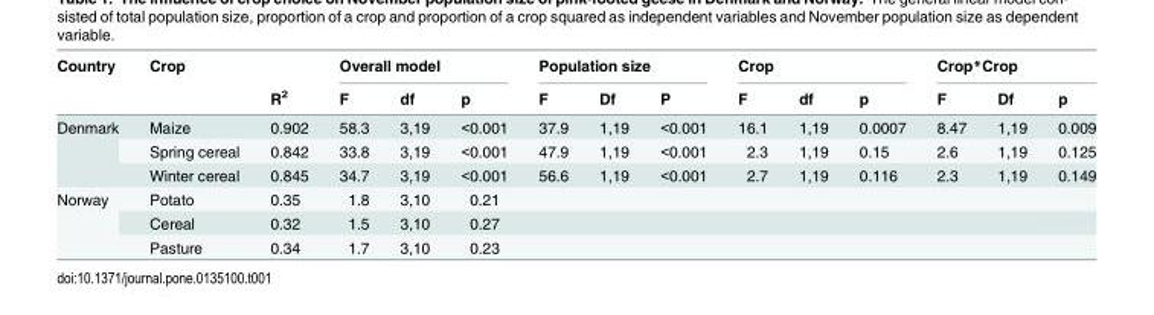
<table><thead><tr><td rowspan="2">Country</td><td rowspan="2">Crop</td><td rowspan="2">R<sup>2</sup></td><td colspan="3">Overall model</td><td colspan="3">Population size</td><td colspan="3">Crop</td><td colspan="3">Crop*Crop</td></tr><tr><td>F</td><td>df</td><td>p</td><td>F</td><td>Df</td><td>P</td><td>F</td><td>df</td><td>p</td><td>F</td><td>Df</td><td>p</td></tr></thead><tbody><tr><td rowspan="3">Denmark</td><td>Maize</td><td>0.902</td><td>58.3</td><td>3,19</td><td>&lt;0.001</td><td>37.9</td><td>1,19</td><td>&lt;0.001</td><td>16.1</td><td>1,19</td><td>0.0007</td><td>8.47</td><td>1,19</td><td>0.009</td></tr><tr><td>Spring cereal</td><td>0.842</td><td>33.8</td><td>3,19</td><td>&lt;0.001</td><td>47.9</td><td>1,19</td><td>&lt;0.001</td><td>2.3</td><td>1,19</td><td>0.15</td><td>2.6</td><td>1,19</td><td>0.125</td></tr><tr><td>Winter cereal</td><td>0.845</td><td>34.7</td><td>3,19</td><td>&lt;0.001</td><td>56.6</td><td>1,19</td><td>&lt;0.001</td><td>2.7</td><td>1,19</td><td>0.116</td><td>2.3</td><td>1,19</td><td>0.149</td></tr><tr><td rowspan="3">Norway</td><td>Potato</td><td>0.35</td><td>1.8</td><td>3,10</td><td>0.21</td><td></td><td></td><td></td><td></td><td></td><td></td><td></td><td></td><td></td></tr><tr><td>Cereal</td><td>0.32</td><td>1.5</td><td>3,10</td><td>0.27</td><td></td><td></td><td></td><td></td><td></td><td></td><td></td><td></td><td></td></tr><tr><td>Pasture</td><td>0.34</td><td>1.7</td><td>3,10</td><td>0.23</td><td></td><td></td><td></td><td></td><td></td><td></td><td></td><td></td><td></td></tr></tbody></table>